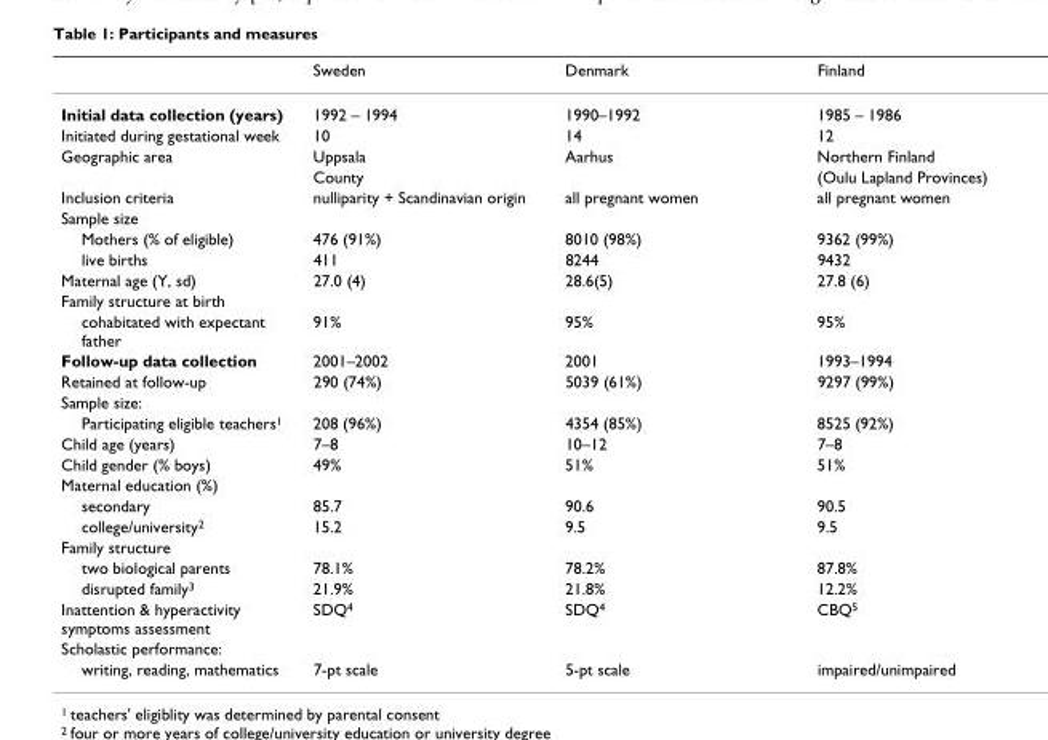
<table><thead><tr><td></td><td>Sweden</td><td>Denmark</td><td>Finland</td></tr></thead><tbody><tr><td>Initial data collection (years)</td><td>1992 – 1994</td><td>1990–1992</td><td>1985 – 1986</td></tr><tr><td>Initiated during gestational week</td><td>10</td><td>14</td><td>12</td></tr><tr><td rowspan="2">Geographic area</td><td>Uppsala</td><td>Aarhus</td><td>Northern Finland</td></tr><tr><td>County</td><td></td><td>(Oulu Lapland Provinces)</td></tr><tr><td>Inclusion criteria</td><td>nulliparity + Scandinavian origin</td><td>all pregnant women</td><td>all pregnant women</td></tr><tr><td colspan="4">Sample size</td></tr><tr><td>Mothers (% of eligible)</td><td>476 (91%)</td><td>8010 (98%)</td><td>9362 (99%)</td></tr><tr><td>live births</td><td>411</td><td>8244</td><td>9432</td></tr><tr><td>Maternal age (Y, sd)</td><td>27.0 (4)</td><td>28.6(5)</td><td>27.8 (6)</td></tr><tr><td colspan="4">Family structure at birth</td></tr><tr><td>cohabitated with expectant father</td><td>91%</td><td>95%</td><td>95%</td></tr><tr><td>Follow-up data collection</td><td>2001–2002</td><td>2001</td><td>1993–1994</td></tr><tr><td>Retained at follow-up</td><td>290 (74%)</td><td>5039 (61%)</td><td>9297 (99%)</td></tr><tr><td colspan="4">Sample size:</td></tr><tr><td>Participating eligible teachers<sup>1</sup></td><td>208 (96%)</td><td>4354 (85%)</td><td>8525 (92%)</td></tr><tr><td>Child age (years)</td><td>7–8</td><td>10–12</td><td>7–8</td></tr><tr><td>Child gender (% boys)</td><td>49%</td><td>51%</td><td>51%</td></tr><tr><td colspan="4">Maternal education (%)</td></tr><tr><td>secondary</td><td>85.7</td><td>90.6</td><td>90.5</td></tr><tr><td>college/university<sup>2</sup></td><td>15.2</td><td>9.5</td><td>9.5</td></tr><tr><td colspan="4">Family structure</td></tr><tr><td>two biological parents</td><td>78.1%</td><td>78.2%</td><td>87.8%</td></tr><tr><td>disrupted family<sup>3</sup></td><td>21.9%</td><td>21.8%</td><td>12.2%</td></tr><tr><td>Inattention &amp; hyperactivity symptoms assessment</td><td>SDQ<sup>4</sup></td><td>SDQ<sup>4</sup></td><td>CBQ<sup>5</sup></td></tr><tr><td colspan="4">Scholastic performance:</td></tr><tr><td>writing, reading, mathematics</td><td>7-pt scale</td><td>5-pt scale</td><td>impaired/unimpaired</td></tr></tbody></table>